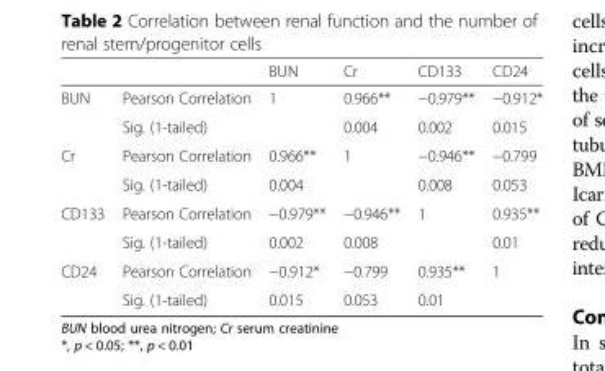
<table><thead><tr><td></td><td></td><td>BUN</td><td>Cr</td><td>CD133</td><td>CD24</td></tr></thead><tbody><tr><td rowspan="2">BUN</td><td>Pearson Correlation</td><td>1</td><td>0.966**</td><td>−0.979**</td><td>−0.912*</td></tr><tr><td>Sig. (1-tailed)</td><td></td><td>0.004</td><td>0.002</td><td>0.015</td></tr><tr><td rowspan="2">Cr</td><td>Pearson Correlation</td><td>0.966**</td><td>1</td><td>−0.946**</td><td>−0.799</td></tr><tr><td>Sig. (1-tailed)</td><td>0.004</td><td></td><td>0.008</td><td>0.053</td></tr><tr><td rowspan="2">CD133</td><td>Pearson Correlation</td><td>−0.979**</td><td>−0.946**</td><td>1</td><td>0.935**</td></tr><tr><td>Sig. (1-tailed)</td><td>0.002</td><td>0.008</td><td></td><td>0.01</td></tr><tr><td rowspan="2">CD24</td><td>Pearson Correlation</td><td>−0.912*</td><td>−0.799</td><td>0.935**</td><td>1</td></tr><tr><td>Sig. (1-tailed)</td><td>0.015</td><td>0.053</td><td>0.01</td><td></td></tr></tbody></table>